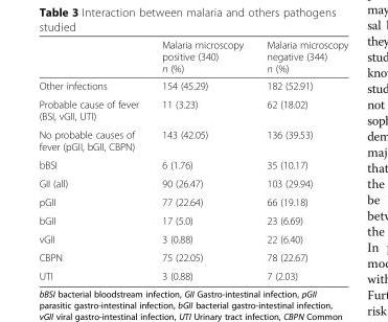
<table><thead><tr><td></td><td>Malaria microscopy positive (340) n (%)</td><td>Malaria microscopy negative (344) n (%)</td></tr></thead><tbody><tr><td>Other infections</td><td>154 (45.29)</td><td>182 (52.91)</td></tr><tr><td>Probable cause of fever (BSI, vGII, UTI)</td><td>11 (3.23)</td><td>62 (18.02)</td></tr><tr><td>No probable causes of fever (pGII, bGII, CBPN)</td><td>143 (42.05)</td><td>136 (39.53)</td></tr><tr><td>bBSI</td><td>6 (1.76)</td><td>35 (10.17)</td></tr><tr><td>GII (all)</td><td>90 (26.47)</td><td>103 (29.94)</td></tr><tr><td>pGII</td><td>77 (22.64)</td><td>66 (19.18)</td></tr><tr><td>bGII</td><td>17 (5.0)</td><td>23 (6.69)</td></tr><tr><td>vGII</td><td>3 (0.88)</td><td>22 (6.40)</td></tr><tr><td>CBPN</td><td>75 (22.05)</td><td>78 (22.67)</td></tr><tr><td>UTI</td><td>3 (0.88)</td><td>7 (2.03)</td></tr></tbody></table>